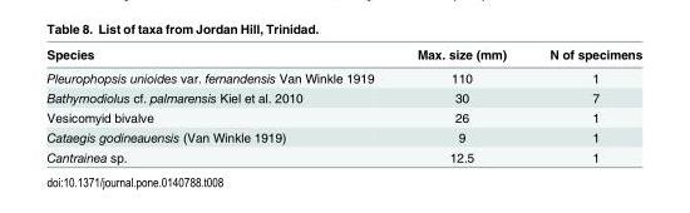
<table><thead><tr><td>Species</td><td>Max. size (mm)</td><td>N of specimens</td></tr></thead><tbody><tr><td>Pleurophopsis unioides var. fernandensis Van Winkle 1919</td><td>110</td><td>1</td></tr><tr><td>Bathymodiolus cf. palmarensis Kiel et al. 2010</td><td>30</td><td>7</td></tr><tr><td>Vesicomyid bivalve</td><td>26</td><td>1</td></tr><tr><td>Cataegis godineauensis (Van Winkle 1919)</td><td>9</td><td>1</td></tr><tr><td>Cantrainea sp.</td><td>12.5</td><td>1</td></tr></tbody></table>